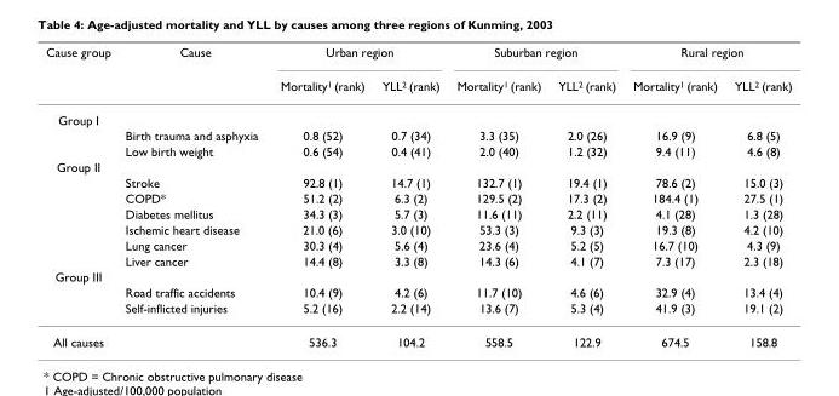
<table><thead><tr><td rowspan="2">Cause group</td><td rowspan="2">Cause</td><td colspan="2">Urban region</td><td colspan="2">Suburban region</td><td colspan="2">Rural region</td></tr><tr><td>Mortality<sup>1</sup> (rank)</td><td>YLL<sup>2</sup> (rank)</td><td>Mortality<sup>1</sup> (rank)</td><td>YLL<sup>2</sup> (rank)</td><td>Mortality<sup>1</sup> (rank)</td><td>YLL<sup>2</sup> (rank)</td></tr></thead><tbody><tr><td colspan="8">Group I</td></tr><tr><td></td><td>Birth trauma and asphyxia</td><td>0.8 (52)</td><td>0.7 (34)</td><td>3.3 (35)</td><td>2.0 (26)</td><td>16.9 (9)</td><td>6.8 (5)</td></tr><tr><td></td><td>Low birth weight</td><td>0.6 (54)</td><td>0.4 (41)</td><td>2.0 (40)</td><td>1.2 (32)</td><td>9.4 (11)</td><td>4.6 (8)</td></tr><tr><td colspan="8">Group II</td></tr><tr><td></td><td>Stroke</td><td>92.8 (1)</td><td>14.7 (1)</td><td>132.7 (1)</td><td>19.4 (1)</td><td>78.6 (2)</td><td>15.0 (3)</td></tr><tr><td></td><td>COPD*</td><td>51.2 (2)</td><td>6.3 (2)</td><td>129.5 (2)</td><td>17.3 (2)</td><td>184.4 (1)</td><td>27.5 (1)</td></tr><tr><td></td><td>Diabetes mellitus</td><td>34.3 (3)</td><td>5.7 (3)</td><td>11.6 (11)</td><td>2.2 (11)</td><td>4.1 (28)</td><td>1.3 (28)</td></tr><tr><td></td><td>Ischemic heart disease</td><td>21.0 (6)</td><td>3.0 (10)</td><td>53.3 (3)</td><td>9.3 (3)</td><td>19.3 (8)</td><td>4.2 (10)</td></tr><tr><td></td><td>Lung cancer</td><td>30.3 (4)</td><td>5.6 (4)</td><td>23.6 (4)</td><td>5.2 (5)</td><td>16.7 (10)</td><td>4.3 (9)</td></tr><tr><td></td><td>Liver cancer</td><td>14.4 (8)</td><td>3.3 (8)</td><td>14.3 (6)</td><td>4.1 (7)</td><td>7.3 (17)</td><td>2.3 (18)</td></tr><tr><td colspan="8">Group III</td></tr><tr><td></td><td>Road traffic accidents</td><td>10.4 (9)</td><td>4.2 (6)</td><td>11.7 (10)</td><td>4.6 (6)</td><td>32.9 (4)</td><td>13.4 (4)</td></tr><tr><td></td><td>Self-inflicted injuries</td><td>5.2 (16)</td><td>2.2 (14)</td><td>13.6 (7)</td><td>5.3 (4)</td><td>41.9 (3)</td><td>19.1 (2)</td></tr><tr><td>All causes</td><td></td><td>536.3</td><td>104.2</td><td>558.5</td><td>122.9</td><td>674.5</td><td>158.8</td></tr></tbody></table>